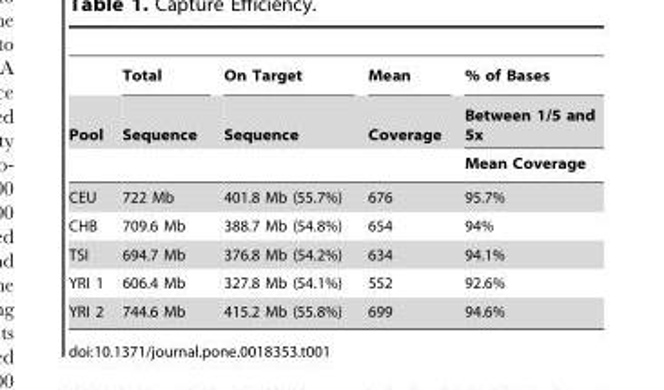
<table><thead><tr><td rowspan="3">Pool</td><td rowspan="3">Total Sequence</td><td rowspan="3">On Target Sequence</td><td rowspan="3">Mean Coverage</td><td rowspan="3">% of Bases Between 1/5 and 5x Mean Coverage</td></tr><tr></tr><tr></tr></thead><tbody><tr><td>CEU</td><td>722 Mb</td><td>401.8 Mb (55.7%)</td><td>676</td><td>95.7%</td></tr><tr><td>CHB</td><td>709.6 Mb</td><td>388.7 Mb (54.8%)</td><td>654</td><td>94%</td></tr><tr><td>TSI</td><td>694.7 Mb</td><td>376.8 Mb (54.2%)</td><td>634</td><td>94.1%</td></tr><tr><td>YRI 1</td><td>606.4 Mb</td><td>327.8 Mb (54.1%)</td><td>552</td><td>92.6%</td></tr><tr><td>YRI 2</td><td>744.6 Mb</td><td>415.2 Mb (55.8%)</td><td>699</td><td>94.6%</td></tr></tbody></table>